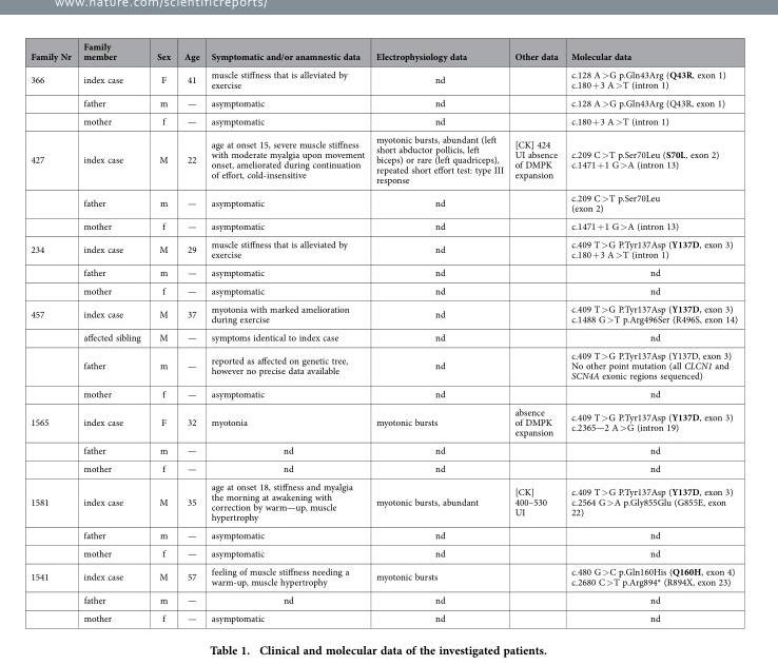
<table><thead><tr><td>Family Nr</td><td>Family member</td><td>Sex</td><td>Age</td><td>Symptomatic and/or anamnestic data</td><td>Electrophysiology data</td><td>Other data</td><td>Molecular data</td></tr></thead><tbody><tr><td rowspan="3">366</td><td>index case</td><td>F</td><td>41</td><td>muscle stiffness that is alleviated by exercise</td><td>nd</td><td></td><td>c.128 A &gt; G p.Gln43Arg (Q43R, exon 1) c.180 + 3 A &gt; T (intron 1)</td></tr><tr><td>father</td><td>m</td><td>—</td><td>asymptomatic</td><td>nd</td><td></td><td>c.128 A &gt; G p.Gln43Arg (Q43R, exon 1)</td></tr><tr><td>mother</td><td>f</td><td>—</td><td>asymptomatic</td><td>nd</td><td></td><td>c.180 + 3 A &gt; T (intron 1)</td></tr><tr><td rowspan="3">427</td><td>index case</td><td>M</td><td>22</td><td>age at onset 15, severe muscle stiffness with moderate myalgia upon movement onset, ameliorated during continuation of effort, cold-insensitive</td><td>myotonic bursts, abundant (left short abductor pollicis, left biceps) or rare (left quadriceps), repeated short effort test: type III response</td><td>[CK] 424 UI absence of DMPK expansion</td><td>c.209 C &gt; T p.Ser70Leu (S70L, exon 2) c.1471 + 1 G &gt; A (intron 13)</td></tr><tr><td>father</td><td>m</td><td>—</td><td>asymptomatic</td><td>nd</td><td></td><td>c.209 C &gt; T p.Ser70Leu (exon 2)</td></tr><tr><td>mother</td><td>f</td><td>—</td><td>asymptomatic</td><td>nd</td><td></td><td>c.1471 + 1 G &gt; A (intron 13)</td></tr><tr><td rowspan="3">234</td><td>index case</td><td>M</td><td>29</td><td>muscle stiffness that is alleviated by exercise</td><td>nd</td><td></td><td>c.409 T &gt; G P.Tyr137Asp (Y137D, exon 3) c.180 + 3 A &gt; T (intron 1)</td></tr><tr><td>father</td><td>m</td><td>—</td><td>asymptomatic</td><td>nd</td><td></td><td>nd</td></tr><tr><td>mother</td><td>f</td><td>—</td><td>asymptomatic</td><td>nd</td><td></td><td>nd</td></tr><tr><td rowspan="4">457</td><td>index case</td><td>M</td><td>37</td><td>myotonia with marked amelioration during exercise</td><td>nd</td><td></td><td>c.409 T &gt; G P.Tyr137Asp (Y137D, exon 3) c.1488 G &gt; T p.Arg496Ser (R496S, exon 14)</td></tr><tr><td>affected sibling</td><td>M</td><td>—</td><td>symptoms identical to index case</td><td>nd</td><td></td><td>nd</td></tr><tr><td>father</td><td>m</td><td>—</td><td>reported as affected on genetic tree, however no precise data available</td><td>nd</td><td></td><td>c.409 T &gt; G P.Tyr137Asp (Y137D, exon 3) No other point mutation (all CLCN1 and SCN4A exonic regions sequenced)</td></tr><tr><td>mother</td><td>f</td><td>—</td><td>asymptomatic</td><td>nd</td><td></td><td>nd</td></tr><tr><td rowspan="3">1565</td><td>index case</td><td>F</td><td>32</td><td>myotonia</td><td>myotonic bursts</td><td>absence of DMPK expansion</td><td>c.409 T &gt; G P.Tyr137Asp (Y137D, exon 3) c.2365—2 A &gt; G (intron 19)</td></tr><tr><td>father</td><td>m</td><td>—</td><td>nd</td><td>nd</td><td></td><td>nd</td></tr><tr><td>mother</td><td>f</td><td>—</td><td>nd</td><td>nd</td><td></td><td>nd</td></tr><tr><td rowspan="3">1581</td><td>index case</td><td>M</td><td>35</td><td>age at onset 18, stiffness and myalgia the morning at awakening with correction by warm—up, muscle hypertrophy</td><td>myotonic bursts, abundant</td><td>[CK] 400–530 UI</td><td>c.409 T &gt; G P.Tyr137Asp (Y137D, exon 3) c.2564 G &gt; A p.Gly855Glu (G855E, exon 22)</td></tr><tr><td>father</td><td>m</td><td>—</td><td>asymptomatic</td><td>nd</td><td></td><td>nd</td></tr><tr><td>mother</td><td>f</td><td>—</td><td>asymptomatic</td><td>nd</td><td></td><td>nd</td></tr><tr><td rowspan="3">1541</td><td>index case</td><td>M</td><td>57</td><td>feeling of muscle stiffness needing a warm-up, muscle hypertrophy</td><td>myotonic bursts</td><td></td><td>c.480 G &gt; C p.Gln160His (Q160H, exon 4) c.2680 C &gt; T p.Arg894* (R894X, exon 23)</td></tr><tr><td>father</td><td>m</td><td>—</td><td>nd</td><td>nd</td><td></td><td>nd</td></tr><tr><td>mother</td><td>f</td><td>—</td><td>asymptomatic</td><td>nd</td><td></td><td>nd</td></tr></tbody></table>